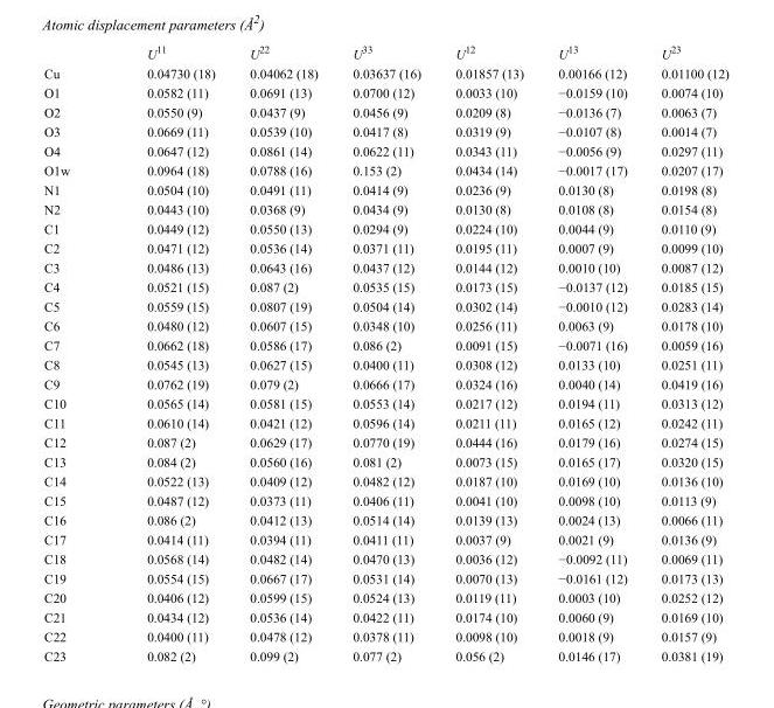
<table><thead><tr><td></td><td>U<sup>11</sup></td><td>U<sup>22</sup></td><td>U<sup>33</sup></td><td>U<sup>12</sup></td><td>U<sup>13</sup></td><td>U<sup>23</sup></td></tr></thead><tbody><tr><td>Cu</td><td>0.04730 (18)</td><td>0.04062 (18)</td><td>0.03637 (16)</td><td>0.01857 (13)</td><td>0.00166 (12)</td><td>0.01100 (12)</td></tr><tr><td>O1</td><td>0.0582 (11)</td><td>0.0691 (13)</td><td>0.0700 (12)</td><td>0.0033 (10)</td><td>−0.0159 (10)</td><td>0.0074 (10)</td></tr><tr><td>O2</td><td>0.0550 (9)</td><td>0.0437 (9)</td><td>0.0456 (9)</td><td>0.0209 (8)</td><td>−0.0136 (7)</td><td>0.0063 (7)</td></tr><tr><td>O3</td><td>0.0669 (11)</td><td>0.0539 (10)</td><td>0.0417 (8)</td><td>0.0319 (9)</td><td>−0.0107 (8)</td><td>0.0014 (7)</td></tr><tr><td>O4</td><td>0.0647 (12)</td><td>0.0861 (14)</td><td>0.0622 (11)</td><td>0.0343 (11)</td><td>−0.0056 (9)</td><td>0.0297 (11)</td></tr><tr><td>O1w</td><td>0.0964 (18)</td><td>0.0788 (16)</td><td>0.153 (2)</td><td>0.0434 (14)</td><td>−0.0017 (17)</td><td>0.0207 (17)</td></tr><tr><td>N1</td><td>0.0504 (10)</td><td>0.0491 (11)</td><td>0.0414 (9)</td><td>0.0236 (9)</td><td>0.0130 (8)</td><td>0.0198 (8)</td></tr><tr><td>N2</td><td>0.0443 (10)</td><td>0.0368 (9)</td><td>0.0434 (9)</td><td>0.0130 (8)</td><td>0.0108 (8)</td><td>0.0154 (8)</td></tr><tr><td>C1</td><td>0.0449 (12)</td><td>0.0550 (13)</td><td>0.0294 (9)</td><td>0.0224 (10)</td><td>0.0044 (9)</td><td>0.0110 (9)</td></tr><tr><td>C2</td><td>0.0471 (12)</td><td>0.0536 (14)</td><td>0.0371 (11)</td><td>0.0195 (11)</td><td>0.0007 (9)</td><td>0.0099 (10)</td></tr><tr><td>C3</td><td>0.0486 (13)</td><td>0.0643 (16)</td><td>0.0437 (12)</td><td>0.0144 (12)</td><td>0.0010 (10)</td><td>0.0087 (12)</td></tr><tr><td>C4</td><td>0.0521 (15)</td><td>0.087 (2)</td><td>0.0535 (15)</td><td>0.0173 (15)</td><td>−0.0137 (12)</td><td>0.0185 (15)</td></tr><tr><td>C5</td><td>0.0559 (15)</td><td>0.0807 (19)</td><td>0.0504 (14)</td><td>0.0302 (14)</td><td>−0.0010 (12)</td><td>0.0283 (14)</td></tr><tr><td>C6</td><td>0.0480 (12)</td><td>0.0607 (15)</td><td>0.0348 (10)</td><td>0.0256 (11)</td><td>0.0063 (9)</td><td>0.0178 (10)</td></tr><tr><td>C7</td><td>0.0662 (18)</td><td>0.0586 (17)</td><td>0.086 (2)</td><td>0.0091 (15)</td><td>−0.0071 (16)</td><td>0.0059 (16)</td></tr><tr><td>C8</td><td>0.0545 (13)</td><td>0.0627 (15)</td><td>0.0400 (11)</td><td>0.0308 (12)</td><td>0.0133 (10)</td><td>0.0251 (11)</td></tr><tr><td>C9</td><td>0.0762 (19)</td><td>0.079 (2)</td><td>0.0666 (17)</td><td>0.0324 (16)</td><td>0.0040 (14)</td><td>0.0419 (16)</td></tr><tr><td>C10</td><td>0.0565 (14)</td><td>0.0581 (15)</td><td>0.0553 (14)</td><td>0.0217 (12)</td><td>0.0194 (11)</td><td>0.0313 (12)</td></tr><tr><td>C11</td><td>0.0610 (14)</td><td>0.0421 (12)</td><td>0.0596 (14)</td><td>0.0211 (11)</td><td>0.0165 (12)</td><td>0.0242 (11)</td></tr><tr><td>C12</td><td>0.087 (2)</td><td>0.0629 (17)</td><td>0.0770 (19)</td><td>0.0444 (16)</td><td>0.0179 (16)</td><td>0.0274 (15)</td></tr><tr><td>C13</td><td>0.084 (2)</td><td>0.0560 (16)</td><td>0.081 (2)</td><td>0.0073 (15)</td><td>0.0165 (17)</td><td>0.0320 (15)</td></tr><tr><td>C14</td><td>0.0522 (13)</td><td>0.0409 (12)</td><td>0.0482 (12)</td><td>0.0187 (10)</td><td>0.0169 (10)</td><td>0.0136 (10)</td></tr><tr><td>C15</td><td>0.0487 (12)</td><td>0.0373 (11)</td><td>0.0406 (11)</td><td>0.0041 (10)</td><td>0.0098 (10)</td><td>0.0113 (9)</td></tr><tr><td>C16</td><td>0.086 (2)</td><td>0.0412 (13)</td><td>0.0514 (14)</td><td>0.0139 (13)</td><td>0.0024 (13)</td><td>0.0066 (11)</td></tr><tr><td>C17</td><td>0.0414 (11)</td><td>0.0394 (11)</td><td>0.0411 (11)</td><td>0.0037 (9)</td><td>0.0021 (9)</td><td>0.0136 (9)</td></tr><tr><td>C18</td><td>0.0568 (14)</td><td>0.0482 (14)</td><td>0.0470 (13)</td><td>0.0036 (12)</td><td>−0.0092 (11)</td><td>0.0069 (11)</td></tr><tr><td>C19</td><td>0.0554 (15)</td><td>0.0667 (17)</td><td>0.0531 (14)</td><td>0.0070 (13)</td><td>−0.0161 (12)</td><td>0.0173 (13)</td></tr><tr><td>C20</td><td>0.0406 (12)</td><td>0.0599 (15)</td><td>0.0524 (13)</td><td>0.0119 (11)</td><td>0.0003 (10)</td><td>0.0252 (12)</td></tr><tr><td>C21</td><td>0.0434 (12)</td><td>0.0536 (14)</td><td>0.0422 (11)</td><td>0.0174 (10)</td><td>0.0060 (9)</td><td>0.0169 (10)</td></tr><tr><td>C22</td><td>0.0400 (11)</td><td>0.0478 (12)</td><td>0.0378 (11)</td><td>0.0098 (10)</td><td>0.0018 (9)</td><td>0.0157 (9)</td></tr><tr><td>C23</td><td>0.082 (2)</td><td>0.099 (2)</td><td>0.077 (2)</td><td>0.056 (2)</td><td>0.0146 (17)</td><td>0.0381 (19)</td></tr></tbody></table>